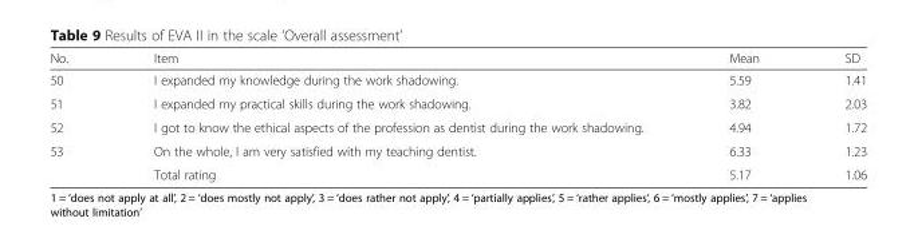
<table><thead><tr><td>No.</td><td>Item</td><td>Mean</td><td>SD</td></tr></thead><tbody><tr><td>50</td><td>I expanded my knowledge during the work shadowing.</td><td>5.59</td><td>1.41</td></tr><tr><td>51</td><td>I expanded my practical skills during the work shadowing.</td><td>3.82</td><td>2.03</td></tr><tr><td>52</td><td>I got to know the ethical aspects of the profession as dentist during the work shadowing.</td><td>4.94</td><td>1.72</td></tr><tr><td rowspan="2">53</td><td>On the whole, I am very satisfied with my teaching dentist.</td><td>6.33</td><td>1.23</td></tr><tr><td>Total rating</td><td>5.17</td><td>1.06</td></tr></tbody></table>